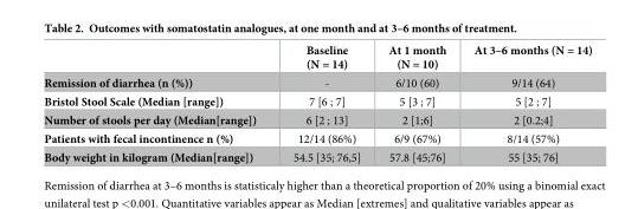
<table><thead><tr><td></td><td>Baseline (N = 14)</td><td>At 1 month (N = 10)</td><td>At 3–6 months (N = 14)</td></tr></thead><tbody><tr><td>Remission of diarrhea (n (%))</td><td>-</td><td>6/10 (60)</td><td>9/14 (64)</td></tr><tr><td>Bristol Stool Scale (Median [range])</td><td>7 [6 ; 7]</td><td>5 [3 ; 7]</td><td>5 [2 ; 7]</td></tr><tr><td>Number of stools per day (Median[range])</td><td>6 [2 ; 13]</td><td>2 [1;6]</td><td>2 [0.2;4]</td></tr><tr><td>Patients with fecal incontinence n (%)</td><td>12/14 (86%)</td><td>6/9 (67%)</td><td>8/14 (57%)</td></tr><tr><td>Body weight in kilogram (Median[range])</td><td>54.5 [35; 76,5]</td><td>57.8 [45;76]</td><td>55 [35; 76]</td></tr></tbody></table>